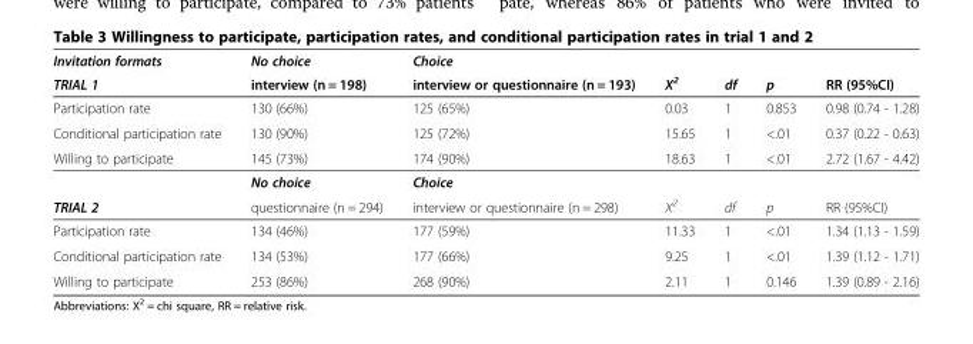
<table><thead><tr><td rowspan="2">Invitation formats TRIAL 1</td><td rowspan="2">No choice interview (n = 198)</td><td rowspan="2">Choice interview or questionnaire (n = 193)</td><td rowspan="2">X2</td><td rowspan="2">df</td><td rowspan="2">p</td><td rowspan="2">RR (95%CI)</td></tr><tr></tr></thead><tbody><tr><td>Participation rate</td><td>130 (66%)</td><td>125 (65%)</td><td>0.03</td><td>1</td><td>0.853</td><td>0.98 (0.74 - 1.28)</td></tr><tr><td>Conditional participation rate</td><td>130 (90%)</td><td>125 (72%)</td><td>15.65</td><td>1</td><td>&lt;.01</td><td>0.37 (0.22 - 0.63)</td></tr><tr><td rowspan="2">Willing to participate</td><td>145 (73%)</td><td>174 (90%)</td><td>18.63</td><td>1</td><td>&lt;.01</td><td>2.72 (1.67 - 4.42)</td></tr><tr><td>No choice</td><td>Choice</td><td></td><td></td><td></td><td></td></tr><tr><td>TRIAL 2</td><td>questionnaire (n = 294)</td><td>interview or questionnaire (n = 298)</td><td>X<sup>2</sup></td><td>df</td><td>p</td><td>RR (95%CI)</td></tr><tr><td>Participation rate</td><td>134 (46%)</td><td>177 (59%)</td><td>11.33</td><td>1</td><td>&lt;.01</td><td>1.34 (1.13 - 1.59)</td></tr><tr><td>Conditional participation rate</td><td>134 (53%)</td><td>177 (66%)</td><td>9.25</td><td>1</td><td>&lt;.01</td><td>1.39 (1.12 - 1.71)</td></tr><tr><td>Willing to participate</td><td>253 (86%)</td><td>268 (90%)</td><td>2.11</td><td>1</td><td>0.146</td><td>1.39 (0.89 - 2.16)</td></tr></tbody></table>